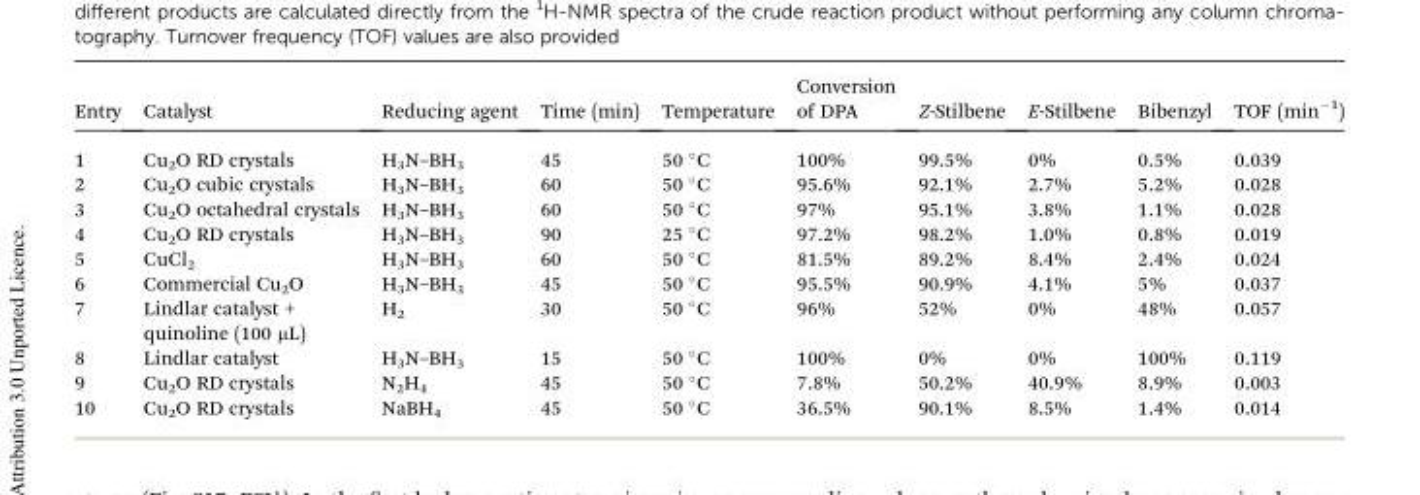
<table><thead><tr><td>Entry</td><td>Catalyst</td><td>Reducing agent</td><td>Time (min)</td><td>Temperature</td><td>Conversion of DPA</td><td>Z-Stilbene</td><td>E-Stilbene</td><td>Bibenzyl</td><td>TOF (min<sup>–1</sup>)</td></tr></thead><tbody><tr><td>1</td><td>Cu<sub>2</sub>O RD crystals</td><td>H<sub>3</sub>N–BH<sub>3</sub></td><td>45</td><td>50 °C</td><td>100%</td><td>99.5%</td><td>0%</td><td>0.5%</td><td>0.039</td></tr><tr><td>2</td><td>Cu<sub>2</sub>O cubic crystals</td><td>H<sub>3</sub>N–BH<sub>3</sub></td><td>60</td><td>50 °C</td><td>95.6%</td><td>92.1%</td><td>2.7%</td><td>5.2%</td><td>0.028</td></tr><tr><td>3</td><td>Cu<sub>2</sub>O octahedral crystals</td><td>H<sub>3</sub>N–BH<sub>3</sub></td><td>60</td><td>50 °C</td><td>97%</td><td>95.1%</td><td>3.8%</td><td>1.1%</td><td>0.028</td></tr><tr><td>4</td><td>Cu<sub>2</sub>O RD crystals</td><td>H<sub>3</sub>N–BH<sub>3</sub></td><td>90</td><td>25 °C</td><td>97.2%</td><td>98.2%</td><td>1.0%</td><td>0.8%</td><td>0.019</td></tr><tr><td>5</td><td>CuCl<sub>2</sub></td><td>H<sub>3</sub>N–BH<sub>3</sub></td><td>60</td><td>50 °C</td><td>81.5%</td><td>89.2%</td><td>8.4%</td><td>2.4%</td><td>0.024</td></tr><tr><td>6</td><td>Commercial Cu<sub>2</sub>O</td><td>H<sub>3</sub>N–BH<sub>3</sub></td><td>45</td><td>50 °C</td><td>95.5%</td><td>90.9%</td><td>4.1%</td><td>5%</td><td>0.037</td></tr><tr><td>7</td><td>Lindlar catalyst + quinoline (100 μL)</td><td>H<sub>2</sub></td><td>30</td><td>50 °C</td><td>96%</td><td>52%</td><td>0%</td><td>48%</td><td>0.057</td></tr><tr><td>8</td><td>Lindlar catalyst</td><td>H<sub>3</sub>N–BH<sub>3</sub></td><td>15</td><td>50 °C</td><td>100%</td><td>0%</td><td>0%</td><td>100%</td><td>0.119</td></tr><tr><td>9</td><td>Cu<sub>2</sub>O RD crystals</td><td>N<sub>2</sub>H<sub>4</sub></td><td>45</td><td>50 °C</td><td>7.8%</td><td>50.2%</td><td>40.9%</td><td>8.9%</td><td>0.003</td></tr><tr><td>10</td><td>Cu<sub>2</sub>O RD crystals</td><td>NaBH<sub>4</sub></td><td>45</td><td>50 °C</td><td>36.5%</td><td>90.1%</td><td>8.5%</td><td>1.4%</td><td>0.014</td></tr></tbody></table>